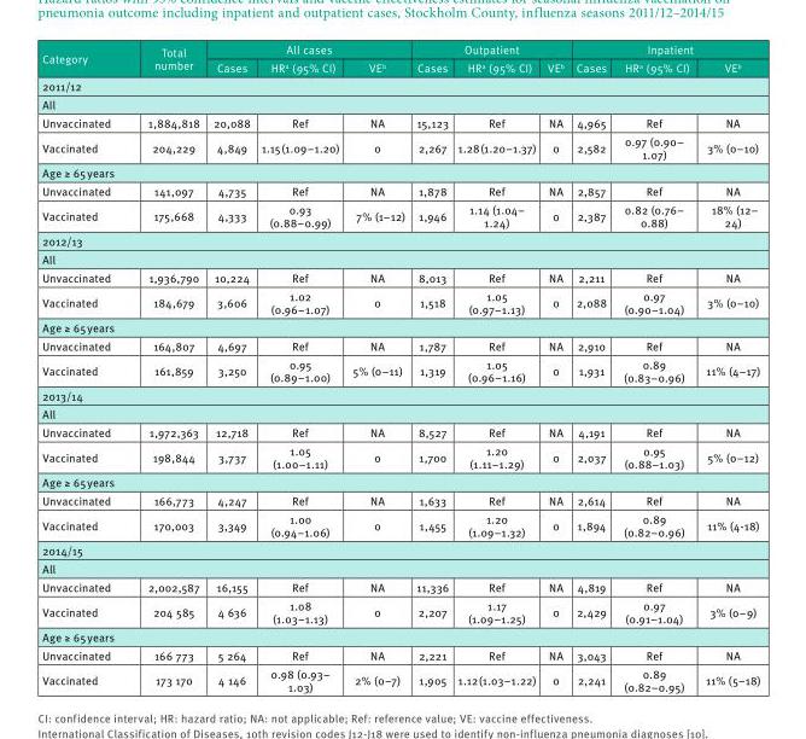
<table><thead><tr><td rowspan="2">Category</td><td rowspan="2">Total number</td><td colspan="3">All cases</td><td colspan="3">Outpatient</td><td colspan="3">Inpatient</td></tr><tr><td>Cases</td><td>HR<sup>a</sup> (95% CI)</td><td>VE<sup>b</sup></td><td>Cases</td><td>HR<sup>a</sup> (95% CI)</td><td>VE<sup>b</sup></td><td>Cases</td><td>HR<sup>a</sup> (95% CI)</td><td>VE<sup>b</sup></td></tr></thead><tbody><tr><td colspan="11">2011/12</td></tr><tr><td colspan="11">All</td></tr><tr><td>Unvaccinated</td><td>1,884,818</td><td>20,088</td><td>Ref</td><td>NA</td><td>15,123</td><td>Ref</td><td>NA</td><td>4,965</td><td>Ref</td><td>NA</td></tr><tr><td>Vaccinated</td><td>204,229</td><td>4,849</td><td>1.15 (1.09–1.20)</td><td>0</td><td>2,267</td><td>1.28 (1.20–1.37)</td><td>0</td><td>2,582</td><td>0.97 (0.90– 1.07)</td><td>3% (0–10)</td></tr><tr><td colspan="11">Age ≥ 65 years</td></tr><tr><td>Unvaccinated</td><td>141,097</td><td>4,735</td><td>Ref</td><td>NA</td><td>1,878</td><td>Ref</td><td>NA</td><td>2,857</td><td>Ref</td><td>NA</td></tr><tr><td>Vaccinated</td><td>175,668</td><td>4,333</td><td>0.93 (0.88–0.99)</td><td>7% (1–12)</td><td>1,946</td><td>1.14 (1.04– 1.24)</td><td>0</td><td>2,387</td><td>0.82 (0.76– 0.88)</td><td>18% (12– 24)</td></tr><tr><td colspan="11">2012/13</td></tr><tr><td colspan="11">All</td></tr><tr><td>Unvaccinated</td><td>1,936,790</td><td>10,224</td><td>Ref</td><td>NA</td><td>8,013</td><td>Ref</td><td>NA</td><td>2,211</td><td>Ref</td><td>NA</td></tr><tr><td>Vaccinated</td><td>184,679</td><td>3,606</td><td>1.02 (0.96–1.07)</td><td>0</td><td>1,518</td><td>1.05 (0.97–1.13)</td><td>0</td><td>2,088</td><td>0.97 (0.90–1.04)</td><td>3% (0–10)</td></tr><tr><td colspan="11">Age ≥ 65 years</td></tr><tr><td>Unvaccinated</td><td>164,807</td><td>4,697</td><td>Ref</td><td>NA</td><td>1,787</td><td>Ref</td><td>NA</td><td>2,910</td><td>Ref</td><td>NA</td></tr><tr><td>Vaccinated</td><td>161,859</td><td>3,250</td><td>0.95 (0.89–1.00)</td><td>5% (0–11)</td><td>1,319</td><td>1.05 (0.96–1.16)</td><td>0</td><td>1,931</td><td>0.89 (0.83–0.96)</td><td>11% (4–17)</td></tr><tr><td colspan="11">2013/14</td></tr><tr><td colspan="11">All</td></tr><tr><td>Unvaccinated</td><td>1,972,363</td><td>12,718</td><td>Ref</td><td>NA</td><td>8,527</td><td>Ref</td><td>NA</td><td>4,191</td><td>Ref</td><td>NA</td></tr><tr><td>Vaccinated</td><td>198,844</td><td>3,737</td><td>1.05 (1.00–1.11)</td><td>0</td><td>1,700</td><td>1.20 (1.11–1.29)</td><td>0</td><td>2,037</td><td>0.95 (0.88–1.03)</td><td>5% (0–12)</td></tr><tr><td colspan="11">Age ≥ 65 years</td></tr><tr><td>Unvaccinated</td><td>166,773</td><td>4,247</td><td>Ref</td><td>NA</td><td>1,633</td><td>Ref</td><td>NA</td><td>2,614</td><td>Ref</td><td>NA</td></tr><tr><td>Vaccinated</td><td>170,003</td><td>3,349</td><td>1.00 (0.94–1.06)</td><td>0</td><td>1,455</td><td>1.20 (1.09–1.32)</td><td>0</td><td>1,894</td><td>0.89 (0.82–0.96)</td><td>11% (4-18)</td></tr><tr><td colspan="11">2014/15</td></tr><tr><td colspan="11">All</td></tr><tr><td>Unvaccinated</td><td>2,002,587</td><td>16,155</td><td>Ref</td><td>NA</td><td>11,336</td><td>Ref</td><td>NA</td><td>4,819</td><td>Ref</td><td>NA</td></tr><tr><td>Vaccinated</td><td>204 585</td><td>4 636</td><td>1.08 (1.03–1.13)</td><td>0</td><td>2,207</td><td>1.17 (1.09–1.25)</td><td>0</td><td>2,429</td><td>0.97 (0.91–1.04)</td><td>3% (0–9)</td></tr><tr><td colspan="11">Age ≥ 65 years</td></tr><tr><td>Unvaccinated</td><td>166 773</td><td>5 264</td><td>Ref</td><td>NA</td><td>2,221</td><td>Ref</td><td>NA</td><td>3,043</td><td>Ref</td><td>NA</td></tr><tr><td>Vaccinated</td><td>173 170</td><td>4 146</td><td>0.98 (0.93– 1.03)</td><td>2% (0–7)</td><td>1,905</td><td>1.12 (1.03–1.22)</td><td>0</td><td>2,241</td><td>0.89 (0.82–0.95)</td><td>11% (5–18)</td></tr></tbody></table>